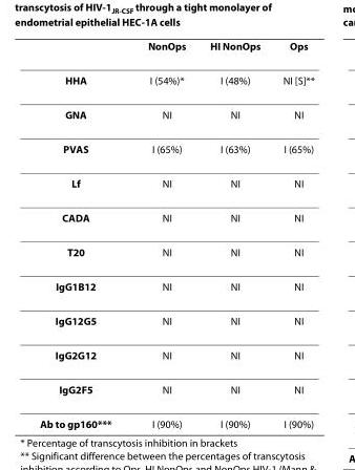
<table><thead><tr><td></td><td>NonOps</td><td>HI NonOps</td><td>Ops</td></tr></thead><tbody><tr><td>HHA</td><td>I (54%)*</td><td>I (48%)</td><td>NI [S]**</td></tr><tr><td>GNA</td><td>NI</td><td>NI</td><td>NI</td></tr><tr><td>PVAS</td><td>I (65%)</td><td>I (63%)</td><td>I (65%)</td></tr><tr><td>Lf</td><td>NI</td><td>NI</td><td>NI</td></tr><tr><td>CADA</td><td>NI</td><td>NI</td><td>NI</td></tr><tr><td>T20</td><td>NI</td><td>NI</td><td>NI</td></tr><tr><td>IgG1B12</td><td>NI</td><td>NI</td><td>NI</td></tr><tr><td>IgG12G5</td><td>NI</td><td>NI</td><td>NI</td></tr><tr><td>IgG2G12</td><td>NI</td><td>NI</td><td>NI</td></tr><tr><td>IgG2F5</td><td>NI</td><td>NI</td><td>NI</td></tr><tr><td>Ab to gp160***</td><td>I (90%)</td><td>I (90%)</td><td>I (90%)</td></tr></tbody></table>